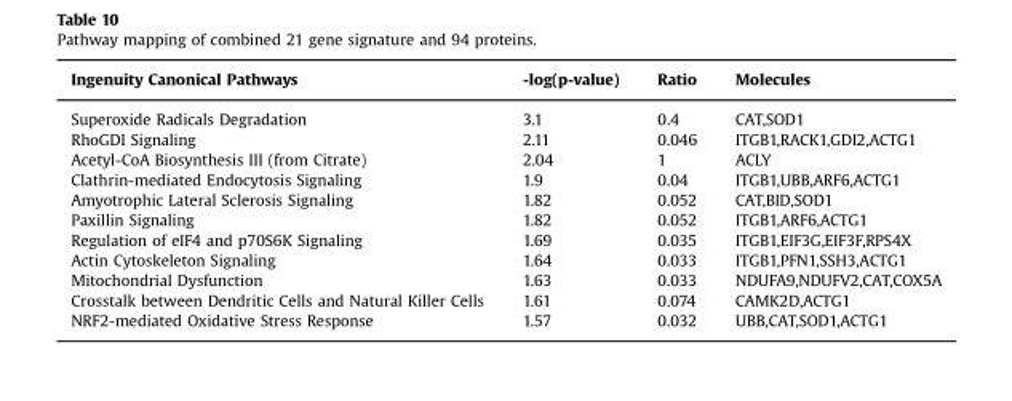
<table><thead><tr><td>Ingenuity Canonical Pathways</td><td>-log(p-value)</td><td>Ratio</td><td>Molecules</td></tr></thead><tbody><tr><td>Superoxide Radicals Degradation</td><td>3.1</td><td>0.4</td><td>CAT,SOD1</td></tr><tr><td>RhoGDI Signaling</td><td>2.11</td><td>0.046</td><td>ITGB1,RACK1,GDI2,ACTG1</td></tr><tr><td>Acetyl-CoA Biosynthesis III (from Citrate)</td><td>2.04</td><td>1</td><td>ACLY</td></tr><tr><td>Clathrin-mediated Endocytosis Signaling</td><td>1.9</td><td>0.04</td><td>ITGB1,UBB,ARF6,ACTG1</td></tr><tr><td>Amyotrophic Lateral Sclerosis Signaling</td><td>1.82</td><td>0.052</td><td>CAT,BID,SOD1</td></tr><tr><td>Paxillin Signaling</td><td>1.82</td><td>0.052</td><td>ITGB1,ARF6,ACTG1</td></tr><tr><td>Regulation of eIF4 and p70S6K Signaling</td><td>1.69</td><td>0.035</td><td>ITGB1,EIF3G,EIF3F,RPS4X</td></tr><tr><td>Actin Cytoskeleton Signaling</td><td>1.64</td><td>0.033</td><td>ITGB1,PFN1,SSH3,ACTG1</td></tr><tr><td>Mitochondrial Dysfunction</td><td>1.63</td><td>0.033</td><td>NDUFA9,NDUFV2,CAT,COX5A</td></tr><tr><td>Crosstalk between Dendritic Cells and Natural Killer Cells</td><td>1.61</td><td>0.074</td><td>CAMK2D,ACTG1</td></tr><tr><td>NRF2-mediated Oxidative Stress Response</td><td>1.57</td><td>0.032</td><td>UBB,CAT,SOD1,ACTG1</td></tr></tbody></table>